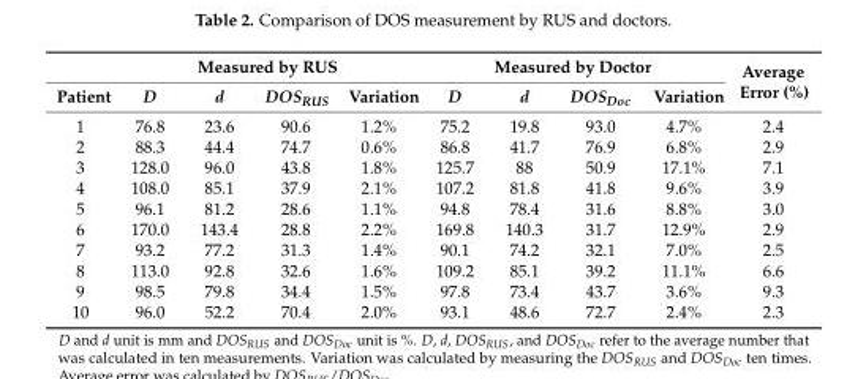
<table><thead><tr><td rowspan="2">Patient</td><td colspan="4">Measured by RUS</td><td colspan="4">Measured by Doctor</td><td rowspan="2">Average Error (%)</td></tr><tr><td>D</td><td>d</td><td>DOS<sub>RUS</sub></td><td>Variation</td><td>D</td><td>d</td><td>DOS<sub>Doc</sub></td><td>Variation</td></tr></thead><tbody><tr><td>1</td><td>76.8</td><td>23.6</td><td>90.6</td><td>1.2%</td><td>75.2</td><td>19.8</td><td>93.0</td><td>4.7%</td><td>2.4</td></tr><tr><td>2</td><td>88.3</td><td>44.4</td><td>74.7</td><td>0.6%</td><td>86.8</td><td>41.7</td><td>76.9</td><td>6.8%</td><td>2.9</td></tr><tr><td>3</td><td>128.0</td><td>96.0</td><td>43.8</td><td>1.8%</td><td>125.7</td><td>88</td><td>50.9</td><td>17.1%</td><td>7.1</td></tr><tr><td>4</td><td>108.0</td><td>85.1</td><td>37.9</td><td>2.1%</td><td>107.2</td><td>81.8</td><td>41.8</td><td>9.6%</td><td>3.9</td></tr><tr><td>5</td><td>96.1</td><td>81.2</td><td>28.6</td><td>1.1%</td><td>94.8</td><td>78.4</td><td>31.6</td><td>8.8%</td><td>3.0</td></tr><tr><td>6</td><td>170.0</td><td>143.4</td><td>28.8</td><td>2.2%</td><td>169.8</td><td>140.3</td><td>31.7</td><td>12.9%</td><td>2.9</td></tr><tr><td>7</td><td>93.2</td><td>77.2</td><td>31.3</td><td>1.4%</td><td>90.1</td><td>74.2</td><td>32.1</td><td>7.0%</td><td>2.5</td></tr><tr><td>8</td><td>113.0</td><td>92.8</td><td>32.6</td><td>1.6%</td><td>109.2</td><td>85.1</td><td>39.2</td><td>11.1%</td><td>6.6</td></tr><tr><td>9</td><td>98.5</td><td>79.8</td><td>34.4</td><td>1.5%</td><td>97.8</td><td>73.4</td><td>43.7</td><td>3.6%</td><td>9.3</td></tr><tr><td>10</td><td>96.0</td><td>52.2</td><td>70.4</td><td>2.0%</td><td>93.1</td><td>48.6</td><td>72.7</td><td>2.4%</td><td>2.3</td></tr></tbody></table>